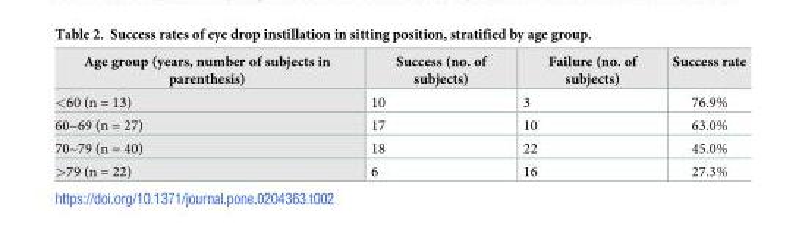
<table><thead><tr><td>Age group (years, number of subjects in parenthesis)</td><td>Success (no. of subjects)</td><td>Failure (no. of subjects)</td><td>Success rate</td></tr></thead><tbody><tr><td>&lt;60 (n = 13)</td><td>10</td><td>3</td><td>76.9%</td></tr><tr><td>60~69 (n = 27)</td><td>17</td><td>10</td><td>63.0%</td></tr><tr><td>70~79 (n = 40)</td><td>18</td><td>22</td><td>45.0%</td></tr><tr><td>&gt;79 (n = 22)</td><td>6</td><td>16</td><td>27.3%</td></tr></tbody></table>